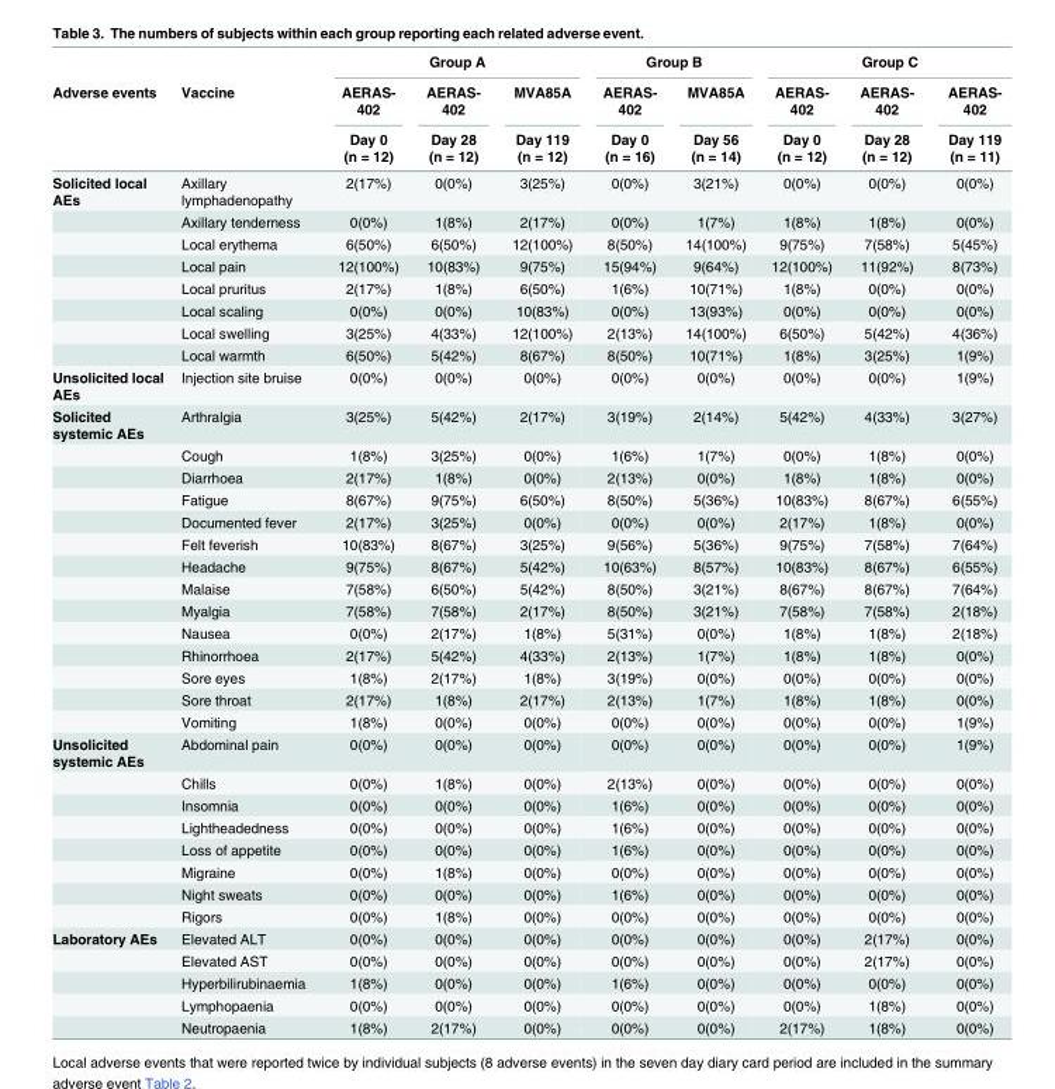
<table><thead><tr><td rowspan="3">Adverse events</td><td rowspan="3">Vaccine</td><td colspan="3">Group A</td><td colspan="2">Group B</td><td colspan="3">Group C</td></tr><tr><td rowspan="2">AERAS- 402 Day 0 (n = 12)</td><td rowspan="2">AERAS- 402 Day 28 (n = 12)</td><td rowspan="2">MVA85A Day 119 (n = 12)</td><td rowspan="2">AERAS- 402 Day 0 (n = 16)</td><td rowspan="2">MVA85A Day 56 (n = 14)</td><td rowspan="2">AERAS- 402 Day 0 (n = 12)</td><td rowspan="2">AERAS- 402 Day 28 (n = 12)</td><td rowspan="2">AERAS- 402 Day 119 (n = 11)</td></tr><tr></tr></thead><tbody><tr><td rowspan="8">Solicited local AEs</td><td>Axillary lymphadenopathy</td><td>2(17%)</td><td>0(0%)</td><td>3(25%)</td><td>0(0%)</td><td>3(21%)</td><td>0(0%)</td><td>0(0%)</td><td>0(0%)</td></tr><tr><td>Axillary tenderness</td><td>0(0%)</td><td>1(8%)</td><td>2(17%)</td><td>0(0%)</td><td>1(7%)</td><td>1(8%)</td><td>1(8%)</td><td>0(0%)</td></tr><tr><td>Local erythema</td><td>6(50%)</td><td>6(50%)</td><td>12(100%)</td><td>8(50%)</td><td>14(100%)</td><td>9(75%)</td><td>7(58%)</td><td>5(45%)</td></tr><tr><td>Local pain</td><td>12(100%)</td><td>10(83%)</td><td>9(75%)</td><td>15(94%)</td><td>9(64%)</td><td>12(100%)</td><td>11(92%)</td><td>8(73%)</td></tr><tr><td>Local pruritus</td><td>2(17%)</td><td>1(8%)</td><td>6(50%)</td><td>1(6%)</td><td>10(71%)</td><td>1(8%)</td><td>0(0%)</td><td>0(0%)</td></tr><tr><td>Local scaling</td><td>0(0%)</td><td>0(0%)</td><td>10(83%)</td><td>0(0%)</td><td>13(93%)</td><td>0(0%)</td><td>0(0%)</td><td>0(0%)</td></tr><tr><td>Local swelling</td><td>3(25%)</td><td>4(33%)</td><td>12(100%)</td><td>2(13%)</td><td>14(100%)</td><td>6(50%)</td><td>5(42%)</td><td>4(36%)</td></tr><tr><td>Local warmth</td><td>6(50%)</td><td>5(42%)</td><td>8(67%)</td><td>8(50%)</td><td>10(71%)</td><td>1(8%)</td><td>3(25%)</td><td>1(9%)</td></tr><tr><td>Unsolicited local AEs</td><td>Injection site bruise</td><td>0(0%)</td><td>0(0%)</td><td>0(0%)</td><td>0(0%)</td><td>0(0%)</td><td>0(0%)</td><td>0(0%)</td><td>1(9%)</td></tr><tr><td rowspan="14">Solicited systemic AEs</td><td>Arthralgia</td><td>3(25%)</td><td>5(42%)</td><td>2(17%)</td><td>3(19%)</td><td>2(14%)</td><td>5(42%)</td><td>4(33%)</td><td>3(27%)</td></tr><tr><td>Cough</td><td>1(8%)</td><td>3(25%)</td><td>0(0%)</td><td>1(6%)</td><td>1(7%)</td><td>0(0%)</td><td>1(8%)</td><td>0(0%)</td></tr><tr><td>Diarrhoea</td><td>2(17%)</td><td>1(8%)</td><td>0(0%)</td><td>2(13%)</td><td>0(0%)</td><td>1(8%)</td><td>1(8%)</td><td>0(0%)</td></tr><tr><td>Fatigue</td><td>8(67%)</td><td>9(75%)</td><td>6(50%)</td><td>8(50%)</td><td>5(36%)</td><td>10(83%)</td><td>8(67%)</td><td>6(55%)</td></tr><tr><td>Documented fever</td><td>2(17%)</td><td>3(25%)</td><td>0(0%)</td><td>0(0%)</td><td>0(0%)</td><td>2(17%)</td><td>1(8%)</td><td>0(0%)</td></tr><tr><td>Felt feverish</td><td>10(83%)</td><td>8(67%)</td><td>3(25%)</td><td>9(56%)</td><td>5(36%)</td><td>9(75%)</td><td>7(58%)</td><td>7(64%)</td></tr><tr><td>Headache</td><td>9(75%)</td><td>8(67%)</td><td>5(42%)</td><td>10(63%)</td><td>8(57%)</td><td>10(83%)</td><td>8(67%)</td><td>6(55%)</td></tr><tr><td>Malaise</td><td>7(58%)</td><td>6(50%)</td><td>5(42%)</td><td>8(50%)</td><td>3(21%)</td><td>8(67%)</td><td>8(67%)</td><td>7(64%)</td></tr><tr><td>Myalgia</td><td>7(58%)</td><td>7(58%)</td><td>2(17%)</td><td>8(50%)</td><td>3(21%)</td><td>7(58%)</td><td>7(58%)</td><td>2(18%)</td></tr><tr><td>Nausea</td><td>0(0%)</td><td>2(17%)</td><td>1(8%)</td><td>5(31%)</td><td>0(0%)</td><td>1(8%)</td><td>1(8%)</td><td>2(18%)</td></tr><tr><td>Rhinorrhoea</td><td>2(17%)</td><td>5(42%)</td><td>4(33%)</td><td>2(13%)</td><td>1(7%)</td><td>1(8%)</td><td>1(8%)</td><td>0(0%)</td></tr><tr><td>Sore eyes</td><td>1(8%)</td><td>2(17%)</td><td>1(8%)</td><td>3(19%)</td><td>0(0%)</td><td>0(0%)</td><td>0(0%)</td><td>0(0%)</td></tr><tr><td>Sore throat</td><td>2(17%)</td><td>1(8%)</td><td>2(17%)</td><td>2(13%)</td><td>1(7%)</td><td>1(8%)</td><td>1(8%)</td><td>0(0%)</td></tr><tr><td>Vomiting</td><td>1(8%)</td><td>0(0%)</td><td>0(0%)</td><td>0(0%)</td><td>0(0%)</td><td>0(0%)</td><td>0(0%)</td><td>1(9%)</td></tr><tr><td rowspan="8">Unsolicited systemic AEs</td><td>Abdominal pain</td><td>0(0%)</td><td>0(0%)</td><td>0(0%)</td><td>0(0%)</td><td>0(0%)</td><td>0(0%)</td><td>0(0%)</td><td>1(9%)</td></tr><tr><td>Chills</td><td>0(0%)</td><td>1(8%)</td><td>0(0%)</td><td>2(13%)</td><td>0(0%)</td><td>0(0%)</td><td>0(0%)</td><td>0(0%)</td></tr><tr><td>Insomnia</td><td>0(0%)</td><td>0(0%)</td><td>0(0%)</td><td>1(6%)</td><td>0(0%)</td><td>0(0%)</td><td>0(0%)</td><td>0(0%)</td></tr><tr><td>Lightheadedness</td><td>0(0%)</td><td>0(0%)</td><td>0(0%)</td><td>1(6%)</td><td>0(0%)</td><td>0(0%)</td><td>0(0%)</td><td>0(0%)</td></tr><tr><td>Loss of appetite</td><td>0(0%)</td><td>0(0%)</td><td>0(0%)</td><td>1(6%)</td><td>0(0%)</td><td>0(0%)</td><td>0(0%)</td><td>0(0%)</td></tr><tr><td>Migraine</td><td>0(0%)</td><td>1(8%)</td><td>0(0%)</td><td>0(0%)</td><td>0(0%)</td><td>0(0%)</td><td>0(0%)</td><td>0(0%)</td></tr><tr><td>Night sweats</td><td>0(0%)</td><td>0(0%)</td><td>0(0%)</td><td>1(6%)</td><td>0(0%)</td><td>0(0%)</td><td>0(0%)</td><td>0(0%)</td></tr><tr><td>Rigors</td><td>0(0%)</td><td>1(8%)</td><td>0(0%)</td><td>0(0%)</td><td>0(0%)</td><td>0(0%)</td><td>0(0%)</td><td>0(0%)</td></tr><tr><td rowspan="5">Laboratory AEs</td><td>Elevated ALT</td><td>0(0%)</td><td>0(0%)</td><td>0(0%)</td><td>0(0%)</td><td>0(0%)</td><td>0(0%)</td><td>2(17%)</td><td>0(0%)</td></tr><tr><td>Elevated AST</td><td>0(0%)</td><td>0(0%)</td><td>0(0%)</td><td>0(0%)</td><td>0(0%)</td><td>0(0%)</td><td>2(17%)</td><td>0(0%)</td></tr><tr><td>Hyperbilirubinaemia</td><td>1(8%)</td><td>0(0%)</td><td>0(0%)</td><td>1(6%)</td><td>0(0%)</td><td>0(0%)</td><td>0(0%)</td><td>0(0%)</td></tr><tr><td>Lymphopaenia</td><td>0(0%)</td><td>0(0%)</td><td>0(0%)</td><td>0(0%)</td><td>0(0%)</td><td>0(0%)</td><td>1(8%)</td><td>0(0%)</td></tr><tr><td>Neutropaenia</td><td>1(8%)</td><td>2(17%)</td><td>0(0%)</td><td>0(0%)</td><td>0(0%)</td><td>2(17%)</td><td>1(8%)</td><td>0(0%)</td></tr></tbody></table>